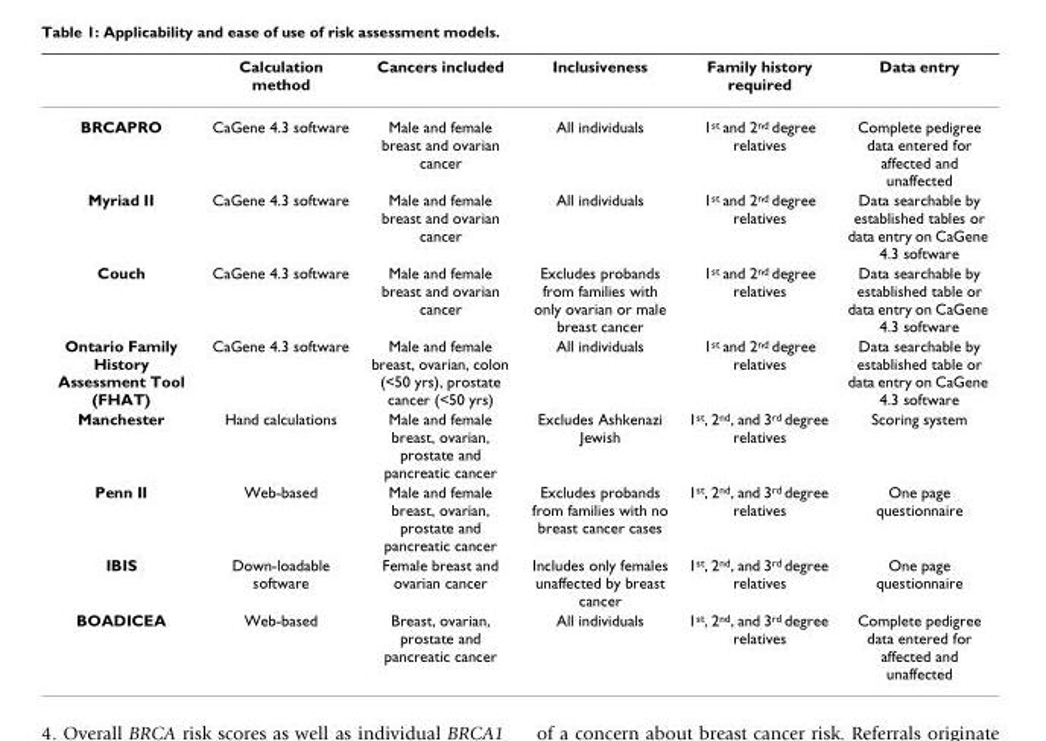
<table><thead><tr><td></td><td>Calculation method</td><td>Cancers included</td><td>Inclusiveness</td><td>Family history required</td><td>Data entry</td></tr></thead><tbody><tr><td>BRCAPRO</td><td>CaGene 4.3 software</td><td>Male and female breast and ovarian cancer</td><td>All individuals</td><td>1<sup>st</sup> and 2<sup>nd</sup> degree relatives</td><td>Complete pedigree data entered for affected and unaffected</td></tr><tr><td>Myriad II</td><td>CaGene 4.3 software</td><td>Male and female breast and ovarian cancer</td><td>All individuals</td><td>1<sup>st</sup> and 2<sup>nd</sup> degree relatives</td><td>Data searchable by established tables or data entry on CaGene 4.3 software</td></tr><tr><td>Couch</td><td>CaGene 4.3 software</td><td>Male and female breast and ovarian cancer</td><td>Excludes probands from families with only ovarian or male breast cancer</td><td>1<sup>st</sup> and 2<sup>nd</sup> degree relatives</td><td>Data searchable by established table or data entry on CaGene 4.3 software</td></tr><tr><td>Ontario Family History Assessment Tool (FHAT)</td><td>CaGene 4.3 software</td><td>Male and female breast, ovarian, colon (&lt;50 yrs), prostate cancer (&lt;50 yrs)</td><td>All individuals</td><td>1<sup>st</sup> and 2<sup>nd</sup> degree relatives</td><td>Data searchable by established table or data entry on CaGene 4.3 software</td></tr><tr><td>Manchester</td><td>Hand calculations</td><td>Male and female breast, ovarian, prostate and pancreatic cancer</td><td>Excludes Ashkenazi Jewish</td><td>1<sup>st</sup>, 2<sup>nd</sup>, and 3<sup>rd</sup> degree relatives</td><td>Scoring system</td></tr><tr><td>Penn II</td><td>Web-based</td><td>Male and female breast, ovarian, prostate and pancreatic cancer</td><td>Excludes probands from families with no breast cancer cases</td><td>1<sup>st</sup>, 2<sup>nd</sup>, and 3<sup>rd</sup> degree relatives</td><td>One page questionnaire</td></tr><tr><td>IBIS</td><td>Down-loadable software</td><td>Female breast and ovarian cancer</td><td>Includes only females unaffected by breast cancer</td><td>1<sup>st</sup>, 2<sup>nd</sup>, and 3<sup>rd</sup> degree relatives</td><td>One page questionnaire</td></tr><tr><td>BOADICEA</td><td>Web-based</td><td>Breast, ovarian, prostate and pancreatic cancer</td><td>All individuals</td><td>1<sup>st</sup>, 2<sup>nd</sup>, and 3<sup>rd</sup> degree relatives</td><td>Complete pedigree data entered for affected and unaffected</td></tr></tbody></table>